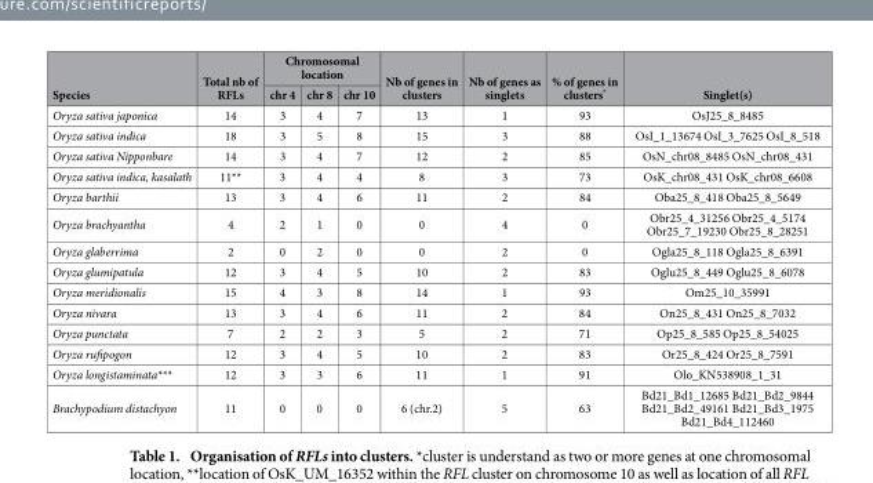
<table><thead><tr><td rowspan="2">Species</td><td rowspan="2">Total nb of RFLs</td><td colspan="3">Chromosomal location</td><td rowspan="2">Nb of genes in clusters</td><td rowspan="2">Nb of genes as singlets</td><td rowspan="2">% of genes in clusters*</td><td rowspan="2">Singlet(s)</td></tr><tr><td>chr 4</td><td>chr 8</td><td>chr 10</td></tr></thead><tbody><tr><td>Oryza sativa japonica</td><td>14</td><td>3</td><td>4</td><td>7</td><td>13</td><td>1</td><td>93</td><td>OsJ25_8_8485</td></tr><tr><td>Oryza sativa indica</td><td>18</td><td>3</td><td>5</td><td>8</td><td>15</td><td>3</td><td>88</td><td>OsI_1_13674 OsI_3_7625 OsI_8_518</td></tr><tr><td>Oryza sativa Nipponbare</td><td>14</td><td>3</td><td>4</td><td>7</td><td>12</td><td>2</td><td>85</td><td>OsN_chr08_8485 OsN_chr08_431</td></tr><tr><td>Oryza sativa indica, kasalath</td><td>11**</td><td>3</td><td>4</td><td>4</td><td>8</td><td>3</td><td>73</td><td>OsK_chr08_431 OsK_chr08_6608</td></tr><tr><td>Oryza barthii</td><td>13</td><td>3</td><td>4</td><td>6</td><td>11</td><td>2</td><td>84</td><td>Oba25_8_418 Oba25_8_5649</td></tr><tr><td>Oryza brachyantha</td><td>4</td><td>2</td><td>1</td><td>0</td><td>0</td><td>4</td><td>0</td><td>Obr25_4_31256 Obr25_4_5174 Obr25_7_19230 Obr25_8_28251</td></tr><tr><td>Oryza glaberrima</td><td>2</td><td>0</td><td>2</td><td>0</td><td>0</td><td>2</td><td>0</td><td>Ogla25_8_118 Ogla25_8_6391</td></tr><tr><td>Oryza glumipatula</td><td>12</td><td>3</td><td>4</td><td>5</td><td>10</td><td>2</td><td>83</td><td>Oglu25_8_449 Oglu25_8_6078</td></tr><tr><td>Oryza meridionalis</td><td>15</td><td>4</td><td>3</td><td>8</td><td>14</td><td>1</td><td>93</td><td>Om25_10_35991</td></tr><tr><td>Oryza nivara</td><td>13</td><td>3</td><td>4</td><td>6</td><td>11</td><td>2</td><td>84</td><td>On25_8_431 On25_8_7032</td></tr><tr><td>Oryza punctata</td><td>7</td><td>2</td><td>2</td><td>3</td><td>5</td><td>2</td><td>71</td><td>Op25_8_585 Op25_8_54025</td></tr><tr><td>Oryza rufipogon</td><td>12</td><td>3</td><td>4</td><td>5</td><td>10</td><td>2</td><td>83</td><td>Or25_8_424 Or25_8_7591</td></tr><tr><td>Oryza longistaminata***</td><td>12</td><td>3</td><td>3</td><td>6</td><td>11</td><td>1</td><td>91</td><td>Olo_KN538908_1_31</td></tr><tr><td>Brachypodium distachyon</td><td>11</td><td>0</td><td>0</td><td>0</td><td>6 (chr.2)</td><td>5</td><td>63</td><td>Bd21_Bd1_12685 Bd21_Bd2_9844 Bd21_Bd2_49161 Bd21_Bd3_1975 Bd21_Bd4_112460</td></tr></tbody></table>